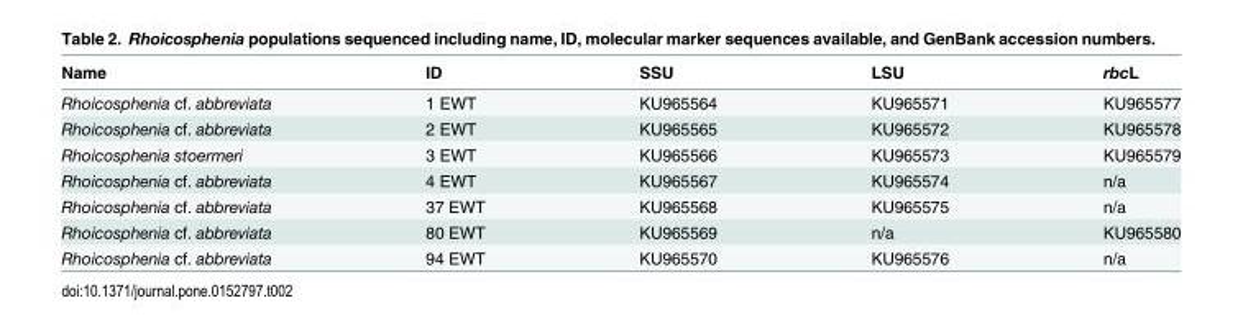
<table><thead><tr><td>Name</td><td>ID</td><td>SSU</td><td>LSU</td><td>rbcL</td></tr></thead><tbody><tr><td>Rhoicosphenia cf. abbreviata</td><td>1 EWT</td><td>KU965564</td><td>KU965571</td><td>KU965577</td></tr><tr><td>Rhoicosphenia cf. abbreviata</td><td>2 EWT</td><td>KU965565</td><td>KU965572</td><td>KU965578</td></tr><tr><td>Rhoicosphenia stoermeri</td><td>3 EWT</td><td>KU965566</td><td>KU965573</td><td>KU965579</td></tr><tr><td>Rhoicosphenia cf. abbreviata</td><td>4 EWT</td><td>KU965567</td><td>KU965574</td><td>n/a</td></tr><tr><td>Rhoicosphenia cf. abbreviata</td><td>37 EWT</td><td>KU965568</td><td>KU965575</td><td>n/a</td></tr><tr><td>Rhoicosphenia cf. abbreviata</td><td>80 EWT</td><td>KU965569</td><td>n/a</td><td>KU965580</td></tr><tr><td>Rhoicosphenia cf. abbreviata</td><td>94 EWT</td><td>KU965570</td><td>KU965576</td><td>n/a</td></tr></tbody></table>